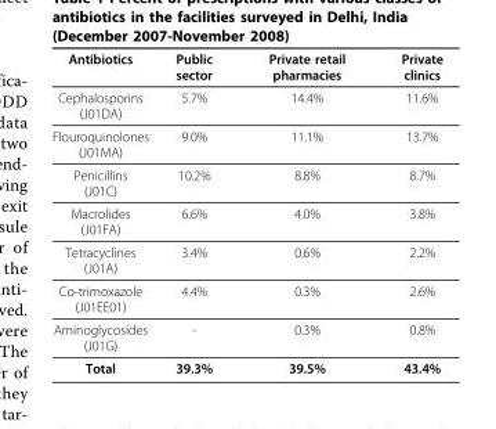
<table><thead><tr><td>Antibiotics</td><td>Public sector</td><td>Private retail pharmacies</td><td>Private clinics</td></tr></thead><tbody><tr><td>Cephalosporins (J01DA)</td><td>5.7%</td><td>14.4%</td><td>11.6%</td></tr><tr><td>Flouroquinolones (J01MA)</td><td>9.0%</td><td>11.1%</td><td>13.7%</td></tr><tr><td>Penicillins (J01C)</td><td>10.2%</td><td>8.8%</td><td>8.7%</td></tr><tr><td>Macrolides (J01FA)</td><td>6.6%</td><td>4.0%</td><td>3.8%</td></tr><tr><td>Tetracyclines (J01A)</td><td>3.4%</td><td>0.6%</td><td>2.2%</td></tr><tr><td>Co-trimoxazole (J01EE01)</td><td>4.4%</td><td>0.3%</td><td>2.6%</td></tr><tr><td>Aminoglycosides (J01G)</td><td>-</td><td>0.3%</td><td>0.8%</td></tr><tr><td>Total</td><td>39.3%</td><td>39.5%</td><td>43.4%</td></tr></tbody></table>